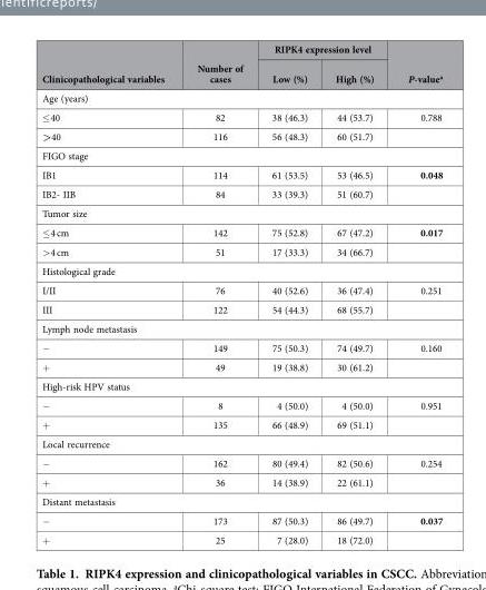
<table><thead><tr><td rowspan="2">Clinicopathological variables</td><td rowspan="2">Number of cases</td><td colspan="2">RIPK4 expression level</td><td rowspan="2">P-value<sup>a</sup></td></tr><tr><td>Low (%)</td><td>High (%)</td></tr></thead><tbody><tr><td colspan="5">Age (years)</td></tr><tr><td>≤ 40</td><td>82</td><td>38 (46.3)</td><td>44 (53.7)</td><td>0.788</td></tr><tr><td>&gt;40</td><td>116</td><td>56 (48.3)</td><td>60 (51.7)</td><td></td></tr><tr><td colspan="5">FIGO stage</td></tr><tr><td>IB1</td><td>114</td><td>61 (53.5)</td><td>53 (46.5)</td><td>0.048</td></tr><tr><td>IB2- IIB</td><td>84</td><td>33 (39.3)</td><td>51 (60.7)</td><td></td></tr><tr><td colspan="5">Tumor size</td></tr><tr><td>≤ 4 cm</td><td>142</td><td>75 (52.8)</td><td>67 (47.2)</td><td>0.017</td></tr><tr><td>&gt; 4 cm</td><td>51</td><td>17 (33.3)</td><td>34 (66.7)</td><td></td></tr><tr><td colspan="5">Histological grade</td></tr><tr><td>I/II</td><td>76</td><td>40 (52.6)</td><td>36 (47.4)</td><td>0.251</td></tr><tr><td>III</td><td>122</td><td>54 (44.3)</td><td>68 (55.7)</td><td></td></tr><tr><td colspan="5">Lymph node metastasis</td></tr><tr><td>−</td><td>149</td><td>75 (50.3)</td><td>74 (49.7)</td><td>0.160</td></tr><tr><td>+</td><td>49</td><td>19 (38.8)</td><td>30 (61.2)</td><td></td></tr><tr><td colspan="5">High-risk HPV status</td></tr><tr><td>−</td><td>8</td><td>4 (50.0)</td><td>4 (50.0)</td><td>0.951</td></tr><tr><td>+</td><td>135</td><td>66 (48.9)</td><td>69 (51.1)</td><td></td></tr><tr><td colspan="5">Local recurrence</td></tr><tr><td>−</td><td>162</td><td>80 (49.4)</td><td>82 (50.6)</td><td>0.254</td></tr><tr><td>+</td><td>36</td><td>14 (38.9)</td><td>22 (61.1)</td><td></td></tr><tr><td colspan="5">Distant metastasis</td></tr><tr><td>−</td><td>173</td><td>87 (50.3)</td><td>86 (49.7)</td><td>0.037</td></tr><tr><td>+</td><td>25</td><td>7 (28.0)</td><td>18 (72.0)</td><td></td></tr></tbody></table>